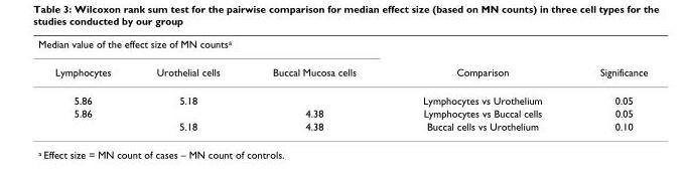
<table><thead><tr><td colspan="3">Median value of the effect size of MN counts<sup>a</sup></td><td rowspan="2">Comparison</td><td rowspan="2">Significance</td></tr><tr><td>Lymphocytes</td><td>Urothelial cells</td><td>Buccal Mucosa cells</td></tr></thead><tbody><tr><td>5.86</td><td>5.18</td><td></td><td>Lymphocytes vs Urothelium</td><td>0.05</td></tr><tr><td rowspan="2">5.86</td><td></td><td>4.38</td><td>Lymphocytes vs Buccal cells</td><td>0.05</td></tr><tr><td>5.18</td><td>4.38</td><td>Buccal cells vs Urothelium</td><td>0.10</td></tr></tbody></table>